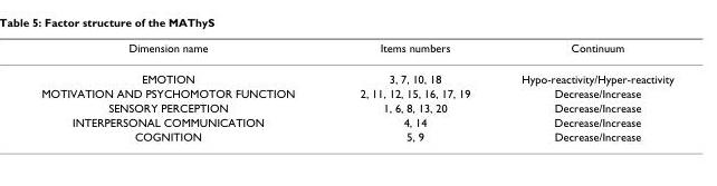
<table><thead><tr><td>Dimension name</td><td>Items numbers</td><td>Continuum</td></tr></thead><tbody><tr><td>EMOTION</td><td>3, 7, 10, 18</td><td>Hypo-reactivity/Hyper-reactivity</td></tr><tr><td>MOTIVATION AND PSYCHOMOTOR FUNCTION</td><td>2, 11, 12, 15, 16, 17, 19</td><td>Decrease/Increase</td></tr><tr><td>SENSORY PERCEPTION</td><td>1, 6, 8, 13, 20</td><td>Decrease/Increase</td></tr><tr><td>INTERPERSONAL COMMUNICATION</td><td>4, 14</td><td>Decrease/Increase</td></tr><tr><td>COGNITION</td><td>5, 9</td><td>Decrease/Increase</td></tr></tbody></table>